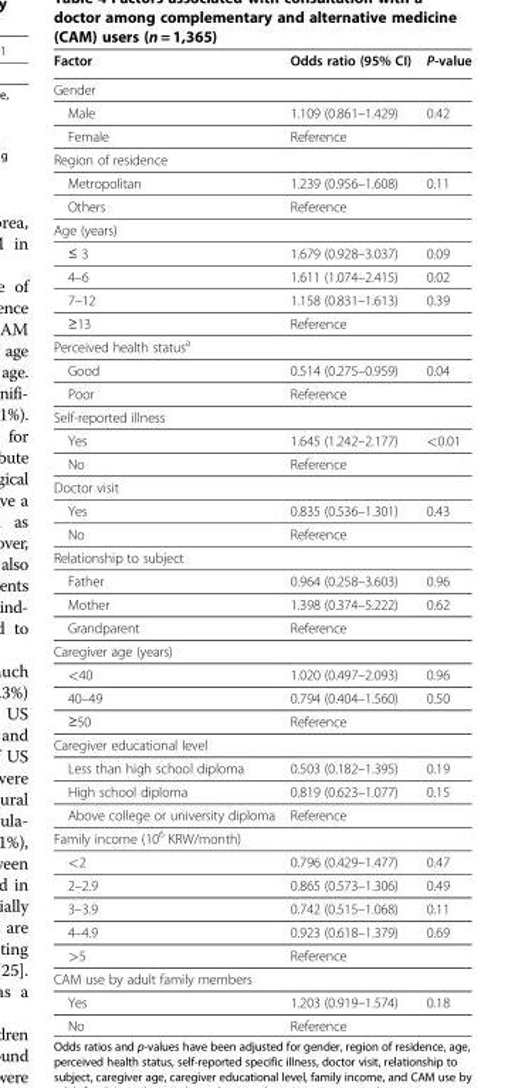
<table><thead><tr><td>Factor</td><td>Odds ratio (95% CI)</td><td>P-value</td></tr></thead><tbody><tr><td colspan="3">Gender</td></tr><tr><td>Male</td><td>1.109 (0.861–1.429)</td><td>0.42</td></tr><tr><td>Female</td><td>Reference</td><td></td></tr><tr><td colspan="3">Region of residence</td></tr><tr><td>Metropolitan</td><td>1.239 (0.956–1.608)</td><td>0.11</td></tr><tr><td>Others</td><td>Reference</td><td></td></tr><tr><td colspan="3">Age (years)</td></tr><tr><td>≤ 3</td><td>1.679 (0.928–3.037)</td><td>0.09</td></tr><tr><td>4–6</td><td>1.611 (1.074–2.415)</td><td>0.02</td></tr><tr><td>7–12</td><td>1.158 (0.831–1.613)</td><td>0.39</td></tr><tr><td>≥13</td><td>Reference</td><td></td></tr><tr><td colspan="3">Perceived health status<sup>a</sup></td></tr><tr><td>Good</td><td>0.514 (0.275–0.959)</td><td>0.04</td></tr><tr><td>Poor</td><td>Reference</td><td></td></tr><tr><td colspan="3">Self-reported illness</td></tr><tr><td>Yes</td><td>1.645 (1.242–2.177)</td><td>&lt;0.01</td></tr><tr><td>No</td><td>Reference</td><td></td></tr><tr><td colspan="3">Doctor visit</td></tr><tr><td>Yes</td><td>0.835 (0.536–1.301)</td><td>0.43</td></tr><tr><td>No</td><td>Reference</td><td></td></tr><tr><td colspan="3">Relationship to subject</td></tr><tr><td>Father</td><td>0.964 (0.258–3.603)</td><td>0.96</td></tr><tr><td>Mother</td><td>1.398 (0.374–5.222)</td><td>0.62</td></tr><tr><td>Grandparent</td><td>Reference</td><td></td></tr><tr><td colspan="3">Caregiver age (years)</td></tr><tr><td>&lt;40</td><td>1.020 (0.497–2.093)</td><td>0.96</td></tr><tr><td>40–49</td><td>0.794 (0.404–1.560)</td><td>0.50</td></tr><tr><td>≥50</td><td>Reference</td><td></td></tr><tr><td colspan="3">Caregiver educational level</td></tr><tr><td>Less than high school diploma</td><td>0.503 (0.182–1.395)</td><td>0.19</td></tr><tr><td>High school diploma</td><td>0.819 (0.623–1.077)</td><td>0.15</td></tr><tr><td>Above college or university diploma</td><td>Reference</td><td></td></tr><tr><td colspan="3">Family income (10<sup>6</sup> KRW/month)</td></tr><tr><td>&lt;2</td><td>0.796 (0.429–1.477)</td><td>0.47</td></tr><tr><td>2–2.9</td><td>0.865 (0.573–1.306)</td><td>0.49</td></tr><tr><td>3–3.9</td><td>0.742 (0.515–1.068)</td><td>0.11</td></tr><tr><td>4–4.9</td><td>0.923 (0.618–1.379)</td><td>0.69</td></tr><tr><td>&gt;5</td><td>Reference</td><td></td></tr><tr><td colspan="3">CAM use by adult family members</td></tr><tr><td>Yes</td><td>1.203 (0.919–1.574)</td><td>0.18</td></tr><tr><td>No</td><td>Reference</td><td></td></tr></tbody></table>